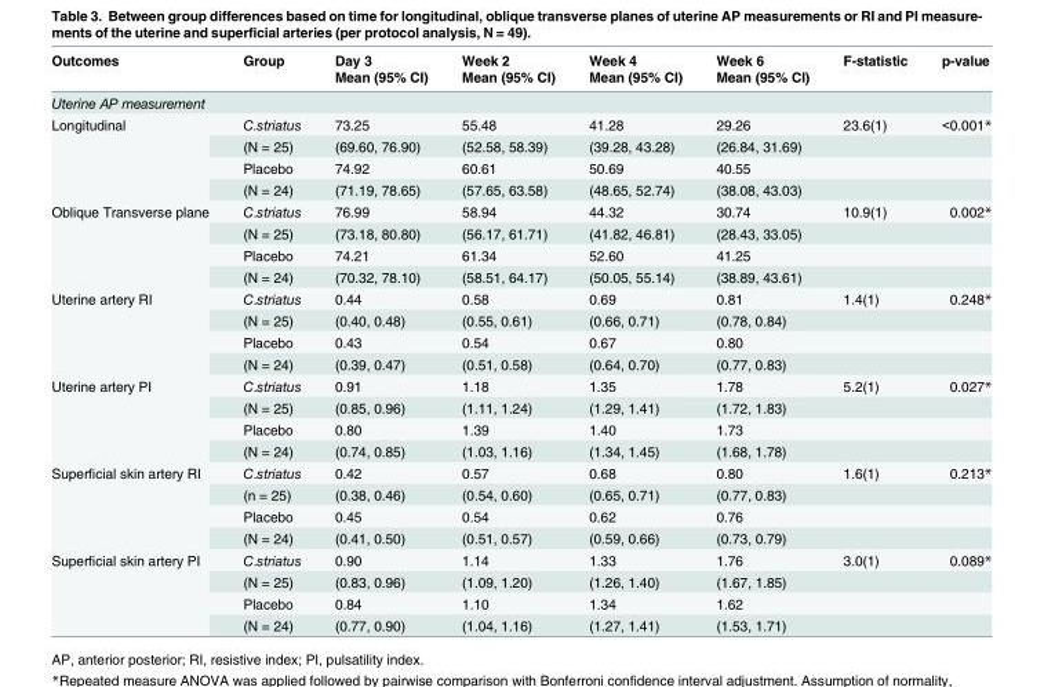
<table><thead><tr><td rowspan="2">Outcomes</td><td rowspan="2">Group</td><td rowspan="2">Day 3 Mean (95% CI)</td><td rowspan="2">Week 2 Mean (95% CI)</td><td rowspan="2">Week 4 Mean (95% CI)</td><td rowspan="2">Week 6 Mean (95% CI)</td><td rowspan="2">F-statistic</td><td rowspan="2">p-value</td></tr><tr></tr></thead><tbody><tr><td colspan="8">Uterine AP measurement</td></tr><tr><td rowspan="4">Longitudinal</td><td>C.striatus</td><td>73.25</td><td>55.48</td><td>41.28</td><td>29.26</td><td>23.6(1)</td><td>&lt;0.001*</td></tr><tr><td>(N = 25)</td><td>(69.60, 76.90)</td><td>(52.58, 58.39)</td><td>(39.28, 43.28)</td><td>(26.84, 31.69)</td><td></td><td></td></tr><tr><td>Placebo</td><td>74.92</td><td>60.61</td><td>50.69</td><td>40.55</td><td></td><td></td></tr><tr><td>(N = 24)</td><td>(71.19, 78.65)</td><td>(57.65, 63.58)</td><td>(48.65, 52.74)</td><td>(38.08, 43.03)</td><td></td><td></td></tr><tr><td rowspan="4">Oblique Transverse plane</td><td>C.striatus</td><td>76.99</td><td>58.94</td><td>44.32</td><td>30.74</td><td>10.9(1)</td><td>0.002*</td></tr><tr><td>(N = 25)</td><td>(73.18, 80.80)</td><td>(56.17, 61.71)</td><td>(41.82, 46.81)</td><td>(28.43, 33.05)</td><td></td><td></td></tr><tr><td>Placebo</td><td>74.21</td><td>61.34</td><td>52.60</td><td>41.25</td><td></td><td></td></tr><tr><td>(N = 24)</td><td>(70.32, 78.10)</td><td>(58.51, 64.17)</td><td>(50.05, 55.14)</td><td>(38.89, 43.61)</td><td></td><td></td></tr><tr><td rowspan="4">Uterine artery RI</td><td>C.striatus</td><td>0.44</td><td>0.58</td><td>0.69</td><td>0.81</td><td>1.4(1)</td><td>0.248*</td></tr><tr><td>(N = 25)</td><td>(0.40, 0.48)</td><td>(0.55, 0.61)</td><td>(0.66, 0.71)</td><td>(0.78, 0.84)</td><td></td><td></td></tr><tr><td>Placebo</td><td>0.43</td><td>0.54</td><td>0.67</td><td>0.80</td><td></td><td></td></tr><tr><td>(N = 24)</td><td>(0.39, 0.47)</td><td>(0.51, 0.58)</td><td>(0.64, 0.70)</td><td>(0.77, 0.83)</td><td></td><td></td></tr><tr><td rowspan="4">Uterine artery PI</td><td>C.striatus</td><td>0.91</td><td>1.18</td><td>1.35</td><td>1.78</td><td>5.2(1)</td><td>0.027*</td></tr><tr><td>(N = 25)</td><td>(0.85, 0.96)</td><td>(1.11, 1.24)</td><td>(1.29, 1.41)</td><td>(1.72, 1.83)</td><td></td><td></td></tr><tr><td>Placebo</td><td>0.80</td><td>1.39</td><td>1.40</td><td>1.73</td><td></td><td></td></tr><tr><td>(N = 24)</td><td>(0.74, 0.85)</td><td>(1.03, 1.16)</td><td>(1.34, 1.45)</td><td>(1.68, 1.78)</td><td></td><td></td></tr><tr><td rowspan="4">Superficial skin artery RI</td><td>C.striatus</td><td>0.42</td><td>0.57</td><td>0.68</td><td>0.80</td><td>1.6(1)</td><td>0.213*</td></tr><tr><td>(n = 25)</td><td>(0.38, 0.46)</td><td>(0.54, 0.60)</td><td>(0.65, 0.71)</td><td>(0.77, 0.83)</td><td></td><td></td></tr><tr><td>Placebo</td><td>0.45</td><td>0.54</td><td>0.62</td><td>0.76</td><td></td><td></td></tr><tr><td>(N = 24)</td><td>(0.41, 0.50)</td><td>(0.51, 0.57)</td><td>(0.59, 0.66)</td><td>(0.73, 0.79)</td><td></td><td></td></tr><tr><td rowspan="4">Superficial skin artery PI</td><td>C.striatus</td><td>0.90</td><td>1.14</td><td>1.33</td><td>1.76</td><td>3.0(1)</td><td>0.089*</td></tr><tr><td>(N = 25)</td><td>(0.83, 0.96)</td><td>(1.09, 1.20)</td><td>(1.26, 1.40)</td><td>(1.67, 1.85)</td><td></td><td></td></tr><tr><td>Placebo</td><td>0.84</td><td>1.10</td><td>1.34</td><td>1.62</td><td></td><td></td></tr><tr><td>(N = 24)</td><td>(0.77, 0.90)</td><td>(1.04, 1.16)</td><td>(1.27, 1.41)</td><td>(1.53, 1.71)</td><td></td><td></td></tr></tbody></table>